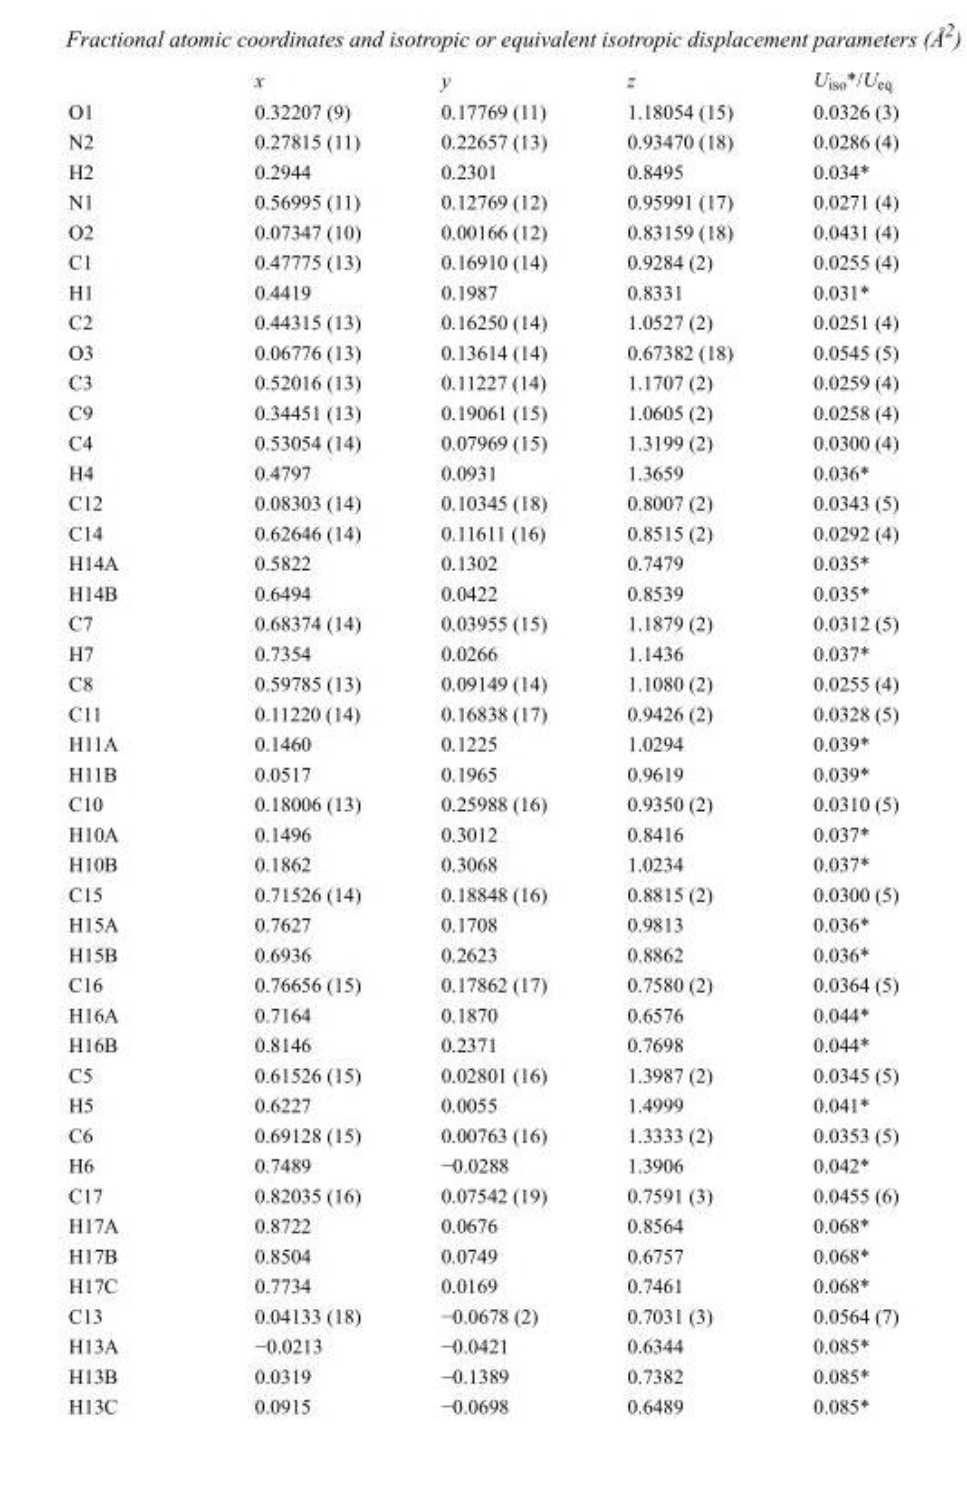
<table><thead><tr><td></td><td>x</td><td>y</td><td>z</td><td>U<sub>iso</sub>*/U<sub>eq</sub></td></tr></thead><tbody><tr><td>O1</td><td>0.32207 (9)</td><td>0.17769 (11)</td><td>1.18054 (15)</td><td>0.0326 (3)</td></tr><tr><td>N2</td><td>0.27815 (11)</td><td>0.22657 (13)</td><td>0.93470 (18)</td><td>0.0286 (4)</td></tr><tr><td>H2</td><td>0.2944</td><td>0.2301</td><td>0.8495</td><td>0.034*</td></tr><tr><td>N1</td><td>0.56995 (11)</td><td>0.12769 (12)</td><td>0.95991 (17)</td><td>0.0271 (4)</td></tr><tr><td>O2</td><td>0.07347 (10)</td><td>0.00166 (12)</td><td>0.83159 (18)</td><td>0.0431 (4)</td></tr><tr><td>C1</td><td>0.47775 (13)</td><td>0.16910 (14)</td><td>0.9284 (2)</td><td>0.0255 (4)</td></tr><tr><td>H1</td><td>0.4419</td><td>0.1987</td><td>0.8331</td><td>0.031*</td></tr><tr><td>C2</td><td>0.44315 (13)</td><td>0.16250 (14)</td><td>1.0527 (2)</td><td>0.0251 (4)</td></tr><tr><td>O3</td><td>0.06776 (13)</td><td>0.13614 (14)</td><td>0.67382 (18)</td><td>0.0545 (5)</td></tr><tr><td>C3</td><td>0.52016 (13)</td><td>0.11227 (14)</td><td>1.1707 (2)</td><td>0.0259 (4)</td></tr><tr><td>C9</td><td>0.34451 (13)</td><td>0.19061 (15)</td><td>1.0605 (2)</td><td>0.0258 (4)</td></tr><tr><td>C4</td><td>0.53054 (14)</td><td>0.07969 (15)</td><td>1.3199 (2)</td><td>0.0300 (4)</td></tr><tr><td>H4</td><td>0.4797</td><td>0.0931</td><td>1.3659</td><td>0.036*</td></tr><tr><td>C12</td><td>0.08303 (14)</td><td>0.10345 (18)</td><td>0.8007 (2)</td><td>0.0343 (5)</td></tr><tr><td>C14</td><td>0.62646 (14)</td><td>0.11611 (16)</td><td>0.8515 (2)</td><td>0.0292 (4)</td></tr><tr><td>H14A</td><td>0.5822</td><td>0.1302</td><td>0.7479</td><td>0.035*</td></tr><tr><td>H14B</td><td>0.6494</td><td>0.0422</td><td>0.8539</td><td>0.035*</td></tr><tr><td>C7</td><td>0.68374 (14)</td><td>0.03955 (15)</td><td>1.1879 (2)</td><td>0.0312 (5)</td></tr><tr><td>H7</td><td>0.7354</td><td>0.0266</td><td>1.1436</td><td>0.037*</td></tr><tr><td>C8</td><td>0.59785 (13)</td><td>0.09149 (14)</td><td>1.1080 (2)</td><td>0.0255 (4)</td></tr><tr><td>C11</td><td>0.11220 (14)</td><td>0.16838 (17)</td><td>0.9426 (2)</td><td>0.0328 (5)</td></tr><tr><td>H11A</td><td>0.1460</td><td>0.1225</td><td>1.0294</td><td>0.039*</td></tr><tr><td>H11B</td><td>0.0517</td><td>0.1965</td><td>0.9619</td><td>0.039*</td></tr><tr><td>C10</td><td>0.18006 (13)</td><td>0.25988 (16)</td><td>0.9350 (2)</td><td>0.0310 (5)</td></tr><tr><td>H10A</td><td>0.1496</td><td>0.3012</td><td>0.8416</td><td>0.037*</td></tr><tr><td>H10B</td><td>0.1862</td><td>0.3068</td><td>1.0234</td><td>0.037*</td></tr><tr><td>C15</td><td>0.71526 (14)</td><td>0.18848 (16)</td><td>0.8815 (2)</td><td>0.0300 (5)</td></tr><tr><td>H15A</td><td>0.7627</td><td>0.1708</td><td>0.9813</td><td>0.036*</td></tr><tr><td>H15B</td><td>0.6936</td><td>0.2623</td><td>0.8862</td><td>0.036*</td></tr><tr><td>C16</td><td>0.76656 (15)</td><td>0.17862 (17)</td><td>0.7580 (2)</td><td>0.0364 (5)</td></tr><tr><td>H16A</td><td>0.7164</td><td>0.1870</td><td>0.6576</td><td>0.044*</td></tr><tr><td>H16B</td><td>0.8146</td><td>0.2371</td><td>0.7698</td><td>0.044*</td></tr><tr><td>C5</td><td>0.61526 (15)</td><td>0.02801 (16)</td><td>1.3987 (2)</td><td>0.0345 (5)</td></tr><tr><td>H5</td><td>0.6227</td><td>0.0055</td><td>1.4999</td><td>0.041*</td></tr><tr><td>C6</td><td>0.69128 (15)</td><td>0.00763 (16)</td><td>1.3333 (2)</td><td>0.0353 (5)</td></tr><tr><td>H6</td><td>0.7489</td><td>−0.0288</td><td>1.3906</td><td>0.042*</td></tr><tr><td>C17</td><td>0.82035 (16)</td><td>0.07542 (19)</td><td>0.7591 (3)</td><td>0.0455 (6)</td></tr><tr><td>H17A</td><td>0.8722</td><td>0.0676</td><td>0.8564</td><td>0.068*</td></tr><tr><td>H17B</td><td>0.8504</td><td>0.0749</td><td>0.6757</td><td>0.068*</td></tr><tr><td>H17C</td><td>0.7734</td><td>0.0169</td><td>0.7461</td><td>0.068*</td></tr><tr><td>C13</td><td>0.04133 (18)</td><td>−0.0678 (2)</td><td>0.7031 (3)</td><td>0.0564 (7)</td></tr><tr><td>H13A</td><td>−0.0213</td><td>−0.0421</td><td>0.6344</td><td>0.085*</td></tr><tr><td>H13B</td><td>0.0319</td><td>−0.1389</td><td>0.7382</td><td>0.085*</td></tr><tr><td>H13C</td><td>0.0915</td><td>−0.0698</td><td>0.6489</td><td>0.085*</td></tr></tbody></table>